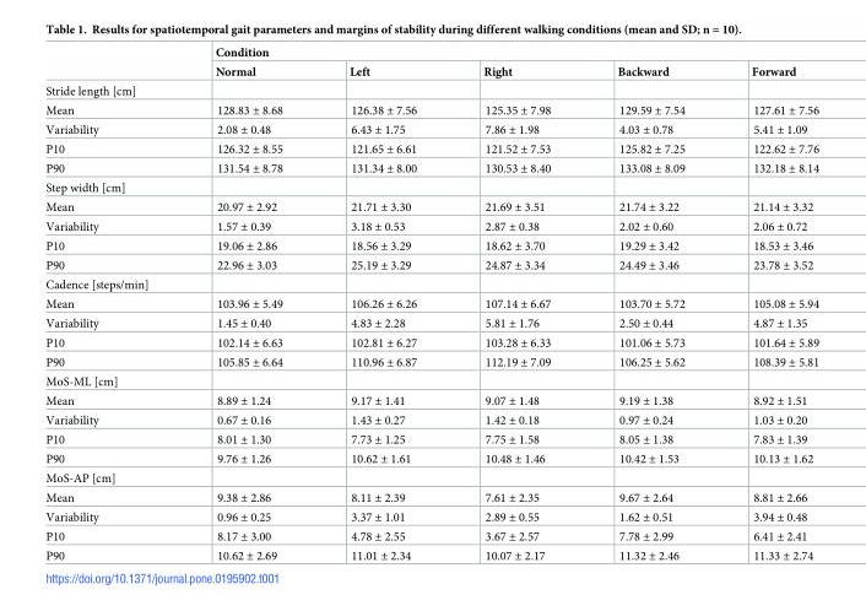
<table><thead><tr><td rowspan="2"></td><td colspan="5">Condition</td></tr><tr><td>Normal</td><td>Left</td><td>Right</td><td>Backward</td><td>Forward</td></tr></thead><tbody><tr><td colspan="6">Stride length [cm]</td></tr><tr><td>Mean</td><td>128.83 ± 8.68</td><td>126.38 ± 7.56</td><td>125.35 ± 7.98</td><td>129.59 ± 7.54</td><td>127.61 ± 7.56</td></tr><tr><td>Variability</td><td>2.08 ± 0.48</td><td>6.43 ± 1.75</td><td>7.86 ± 1.98</td><td>4.03 ± 0.78</td><td>5.41 ± 1.09</td></tr><tr><td>P10</td><td>126.32 ± 8.55</td><td>121.65 ± 6.61</td><td>121.52 ± 7.53</td><td>125.82 ± 7.25</td><td>122.62 ± 7.76</td></tr><tr><td>P90</td><td>131.54 ± 8.78</td><td>131.34 ± 8.00</td><td>130.53 ± 8.40</td><td>133.08 ± 8.09</td><td>132.18 ± 8.14</td></tr><tr><td colspan="6">Step width [cm]</td></tr><tr><td>Mean</td><td>20.97 ± 2.92</td><td>21.71 ± 3.30</td><td>21.69 ± 3.51</td><td>21.74 ± 3.22</td><td>21.14 ± 3.32</td></tr><tr><td>Variability</td><td>1.57 ± 0.39</td><td>3.18 ± 0.53</td><td>2.87 ± 0.38</td><td>2.02 ± 0.60</td><td>2.06 ± 0.72</td></tr><tr><td>P10</td><td>19.06 ± 2.86</td><td>18.56 ± 3.29</td><td>18.62 ± 3.70</td><td>19.29 ± 3.42</td><td>18.53 ± 3.46</td></tr><tr><td>P90</td><td>22.96 ± 3.03</td><td>25.19 ± 3.29</td><td>24.87 ± 3.34</td><td>24.49 ± 3.46</td><td>23.78 ± 3.52</td></tr><tr><td colspan="6">Cadence [steps/min]</td></tr><tr><td>Mean</td><td>103.96 ± 5.49</td><td>106.26 ± 6.26</td><td>107.14 ± 6.67</td><td>103.70 ± 5.72</td><td>105.08 ± 5.94</td></tr><tr><td>Variability</td><td>1.45 ± 0.40</td><td>4.83 ± 2.28</td><td>5.81 ± 1.76</td><td>2.50 ± 0.44</td><td>4.87 ± 1.35</td></tr><tr><td>P10</td><td>102.14 ± 6.63</td><td>102.81 ± 6.27</td><td>103.28 ± 6.33</td><td>101.06 ± 5.73</td><td>101.64 ± 5.89</td></tr><tr><td>P90</td><td>105.85 ± 6.64</td><td>110.96 ± 6.87</td><td>112.19 ± 7.09</td><td>106.25 ± 5.62</td><td>108.39 ± 5.81</td></tr><tr><td colspan="6">MoS-ML [cm]</td></tr><tr><td>Mean</td><td>8.89 ± 1.24</td><td>9.17 ± 1.41</td><td>9.07 ± 1.48</td><td>9.19 ± 1.38</td><td>8.92 ± 1.51</td></tr><tr><td>Variability</td><td>0.67 ± 0.16</td><td>1.43 ± 0.27</td><td>1.42 ± 0.18</td><td>0.97 ± 0.24</td><td>1.03 ± 0.20</td></tr><tr><td>P10</td><td>8.01 ± 1.30</td><td>7.73 ± 1.25</td><td>7.75 ± 1.58</td><td>8.05 ± 1.38</td><td>7.83 ± 1.39</td></tr><tr><td>P90</td><td>9.76 ± 1.26</td><td>10.62 ± 1.61</td><td>10.48 ± 1.46</td><td>10.42 ± 1.53</td><td>10.13 ± 1.62</td></tr><tr><td colspan="6">MoS-AP [cm]</td></tr><tr><td>Mean</td><td>9.38 ± 2.86</td><td>8.11 ± 2.39</td><td>7.61 ± 2.35</td><td>9.67 ± 2.64</td><td>8.81 ± 2.66</td></tr><tr><td>Variability</td><td>0.96 ± 0.25</td><td>3.37 ± 1.01</td><td>2.89 ± 0.55</td><td>1.62 ± 0.51</td><td>3.94 ± 0.48</td></tr><tr><td>P10</td><td>8.17 ± 3.00</td><td>4.78 ± 2.55</td><td>3.67 ± 2.57</td><td>7.78 ± 2.99</td><td>6.41 ± 2.41</td></tr><tr><td>P90</td><td>10.62 ± 2.69</td><td>11.01 ± 2.34</td><td>10.07 ± 2.17</td><td>11.32 ± 2.46</td><td>11.33 ± 2.74</td></tr></tbody></table>